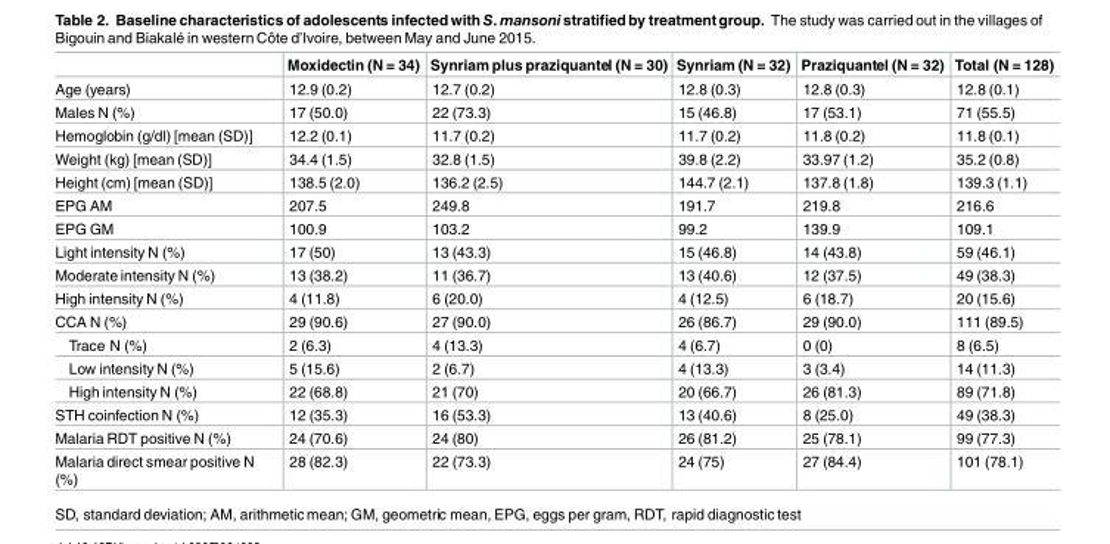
<table><thead><tr><td></td><td>Moxidectin (N = 34)</td><td>Synriam plus praziquantel (N = 30)</td><td>Synriam (N = 32)</td><td>Praziquantel (N = 32)</td><td>Total (N = 128)</td></tr></thead><tbody><tr><td>Age (years)</td><td>12.9 (0.2)</td><td>12.7 (0.2)</td><td>12.8 (0.3)</td><td>12.8 (0.3)</td><td>12.8 (0.1)</td></tr><tr><td>Males N (%)</td><td>17 (50.0)</td><td>22 (73.3)</td><td>15 (46.8)</td><td>17 (53.1)</td><td>71 (55.5)</td></tr><tr><td>Hemoglobin (g/dl) [mean (SD)]</td><td>12.2 (0.1)</td><td>11.7 (0.2)</td><td>11.7 (0.2)</td><td>11.8 (0.2)</td><td>11.8 (0.1)</td></tr><tr><td>Weight (kg) [mean (SD)]</td><td>34.4 (1.5)</td><td>32.8 (1.5)</td><td>39.8 (2.2)</td><td>33.97 (1.2)</td><td>35.2 (0.8)</td></tr><tr><td>Height (cm) [mean (SD)]</td><td>138.5 (2.0)</td><td>136.2 (2.5)</td><td>144.7 (2.1)</td><td>137.8 (1.8)</td><td>139.3 (1.1)</td></tr><tr><td>EPG AM</td><td>207.5</td><td>249.8</td><td>191.7</td><td>219.8</td><td>216.6</td></tr><tr><td>EPG GM</td><td>100.9</td><td>103.2</td><td>99.2</td><td>139.9</td><td>109.1</td></tr><tr><td>Light intensity N (%)</td><td>17 (50)</td><td>13 (43.3)</td><td>15 (46.8)</td><td>14 (43.8)</td><td>59 (46.1)</td></tr><tr><td>Moderate intensity N (%)</td><td>13 (38.2)</td><td>11 (36.7)</td><td>13 (40.6)</td><td>12 (37.5)</td><td>49 (38.3)</td></tr><tr><td>High intensity N (%)</td><td>4 (11.8)</td><td>6 (20.0)</td><td>4 (12.5)</td><td>6 (18.7)</td><td>20 (15.6)</td></tr><tr><td>CCA N (%)</td><td>29 (90.6)</td><td>27 (90.0)</td><td>26 (86.7)</td><td>29 (90.0)</td><td>111 (89.5)</td></tr><tr><td>Trace N (%)</td><td>2 (6.3)</td><td>4 (13.3)</td><td>4 (6.7)</td><td>0 (0)</td><td>8 (6.5)</td></tr><tr><td>Low intensity N (%)</td><td>5 (15.6)</td><td>2 (6.7)</td><td>4 (13.3)</td><td>3 (3.4)</td><td>14 (11.3)</td></tr><tr><td>High intensity N (%)</td><td>22 (68.8)</td><td>21 (70)</td><td>20 (66.7)</td><td>26 (81.3)</td><td>89 (71.8)</td></tr><tr><td>STH coinfection N (%)</td><td>12 (35.3)</td><td>16 (53.3)</td><td>13 (40.6)</td><td>8 (25.0)</td><td>49 (38.3)</td></tr><tr><td>Malaria RDT positive N (%)</td><td>24 (70.6)</td><td>24 (80)</td><td>26 (81.2)</td><td>25 (78.1)</td><td>99 (77.3)</td></tr><tr><td>Malaria direct smear positive N (%)</td><td>28 (82.3)</td><td>22 (73.3)</td><td>24 (75)</td><td>27 (84.4)</td><td>101 (78.1)</td></tr></tbody></table>